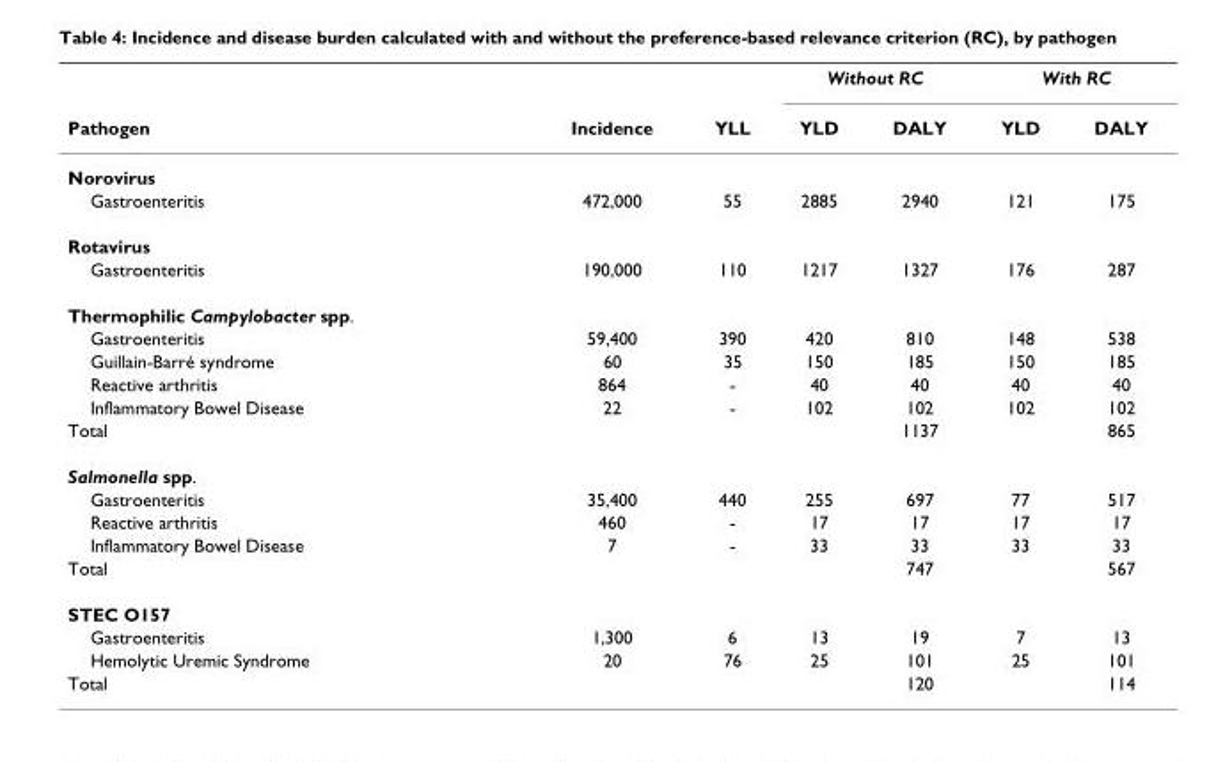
<table><thead><tr><td rowspan="2">Pathogen</td><td rowspan="2">Incidence</td><td rowspan="2">YLL</td><td colspan="2">Without RC</td><td colspan="2">With RC</td></tr><tr><td>YLD</td><td>DALY</td><td>YLD</td><td>DALY</td></tr></thead><tbody><tr><td colspan="7">Norovirus</td></tr><tr><td>Gastroenteritis</td><td>472,000</td><td>55</td><td>2885</td><td>2940</td><td>121</td><td>175</td></tr><tr><td colspan="7">Rotavirus</td></tr><tr><td>Gastroenteritis</td><td>190,000</td><td>110</td><td>1217</td><td>1327</td><td>176</td><td>287</td></tr><tr><td colspan="7">Thermophilic Campylobacter spp.</td></tr><tr><td>Gastroenteritis</td><td>59,400</td><td>390</td><td>420</td><td>810</td><td>148</td><td>538</td></tr><tr><td>Guillain-Barré syndrome</td><td>60</td><td>35</td><td>150</td><td>185</td><td>150</td><td>185</td></tr><tr><td>Reactive arthritis</td><td>864</td><td>-</td><td>40</td><td>40</td><td>40</td><td>40</td></tr><tr><td>Inflammatory Bowel Disease</td><td>22</td><td>-</td><td>102</td><td>102</td><td>102</td><td>102</td></tr><tr><td>Total</td><td></td><td></td><td></td><td>1137</td><td></td><td>865</td></tr><tr><td colspan="7">Salmonella spp.</td></tr><tr><td>Gastroenteritis</td><td>35,400</td><td>440</td><td>255</td><td>697</td><td>77</td><td>517</td></tr><tr><td>Reactive arthritis</td><td>460</td><td>-</td><td>17</td><td>17</td><td>17</td><td>17</td></tr><tr><td>Inflammatory Bowel Disease</td><td>7</td><td>-</td><td>33</td><td>33</td><td>33</td><td>33</td></tr><tr><td>Total</td><td></td><td></td><td></td><td>747</td><td></td><td>567</td></tr><tr><td colspan="7">STEC O157</td></tr><tr><td>Gastroenteritis</td><td>1,300</td><td>6</td><td>13</td><td>19</td><td>7</td><td>13</td></tr><tr><td>Hemolytic Uremic Syndrome</td><td>20</td><td>76</td><td>25</td><td>101</td><td>25</td><td>101</td></tr><tr><td>Total</td><td></td><td></td><td></td><td>120</td><td></td><td>114</td></tr></tbody></table>